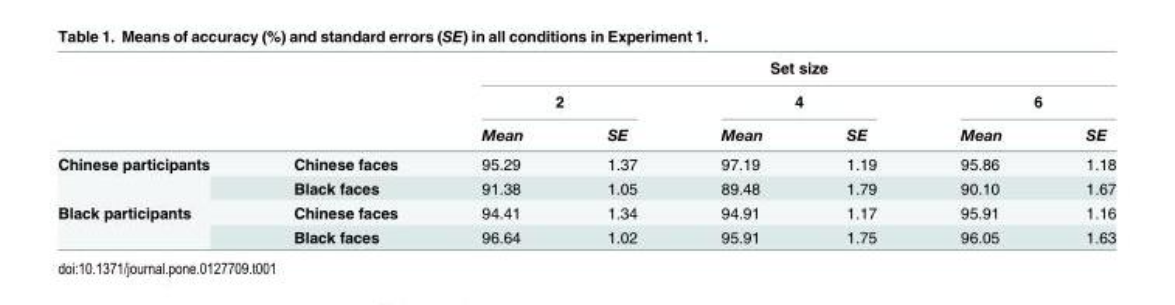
<table><thead><tr><td rowspan="3"></td><td rowspan="3"></td><td colspan="6">Set size</td></tr><tr><td colspan="2">2</td><td colspan="2">4</td><td colspan="2">6</td></tr><tr><td>Mean</td><td>SE</td><td>Mean</td><td>SE</td><td>Mean</td><td>SE</td></tr></thead><tbody><tr><td rowspan="2">Chinese participants</td><td>Chinese faces</td><td>95.29</td><td>1.37</td><td>97.19</td><td>1.19</td><td>95.86</td><td>1.18</td></tr><tr><td>Black faces</td><td>91.38</td><td>1.05</td><td>89.48</td><td>1.79</td><td>90.10</td><td>1.67</td></tr><tr><td rowspan="2">Black participants</td><td>Chinese faces</td><td>94.41</td><td>1.34</td><td>94.91</td><td>1.17</td><td>95.91</td><td>1.16</td></tr><tr><td>Black faces</td><td>96.64</td><td>1.02</td><td>95.91</td><td>1.75</td><td>96.05</td><td>1.63</td></tr></tbody></table>